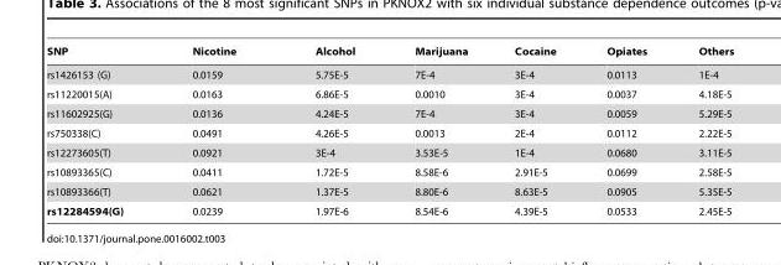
<table><thead><tr><td>SNP</td><td>Nicotine</td><td>Alcohol</td><td>Marijuana</td><td>Cocaine</td><td>Opiates</td><td>Others</td></tr></thead><tbody><tr><td>rs1426153 (G)</td><td>0.0159</td><td>5.75E-5</td><td>7E-4</td><td>3E-4</td><td>0.0113</td><td>1E-4</td></tr><tr><td>rs11220015(A)</td><td>0.0163</td><td>6.86E-5</td><td>0.0010</td><td>3E-4</td><td>0.0037</td><td>4.18E-5</td></tr><tr><td>rs11602925(G)</td><td>0.0136</td><td>4.24E-5</td><td>7E-4</td><td>3E-4</td><td>0.0059</td><td>5.29E-5</td></tr><tr><td>rs750338(C)</td><td>0.0491</td><td>4.26E-5</td><td>0.0013</td><td>2E-4</td><td>0.0112</td><td>2.22E-5</td></tr><tr><td>rs12273605(T)</td><td>0.0921</td><td>3E-4</td><td>3.53E-5</td><td>1E-4</td><td>0.0680</td><td>3.11E-5</td></tr><tr><td>rs10893365(C)</td><td>0.0411</td><td>1.72E-5</td><td>8.58E-6</td><td>2.91E-5</td><td>0.0699</td><td>2.58E-5</td></tr><tr><td>rs10893366(T)</td><td>0.0621</td><td>1.37E-5</td><td>8.80E-6</td><td>8.63E-5</td><td>0.0905</td><td>5.35E-5</td></tr><tr><td>rs12284594(G)</td><td>0.0239</td><td>1.97E-6</td><td>8.54E-6</td><td>4.39E-5</td><td>0.0533</td><td>2.45E-5</td></tr></tbody></table>